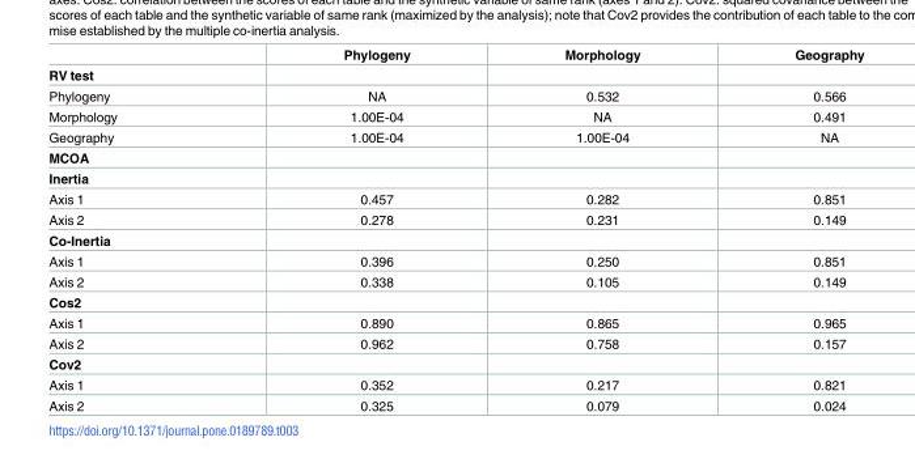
<table><thead><tr><td></td><td>Phylogeny</td><td>Morphology</td><td>Geography</td></tr></thead><tbody><tr><td colspan="4">RV test</td></tr><tr><td>Phylogeny</td><td>NA</td><td>0.532</td><td>0.566</td></tr><tr><td>Morphology</td><td>1.00E-04</td><td>NA</td><td>0.491</td></tr><tr><td>Geography</td><td>1.00E-04</td><td>1.00E-04</td><td>NA</td></tr><tr><td colspan="4">MCOA</td></tr><tr><td colspan="4">Inertia</td></tr><tr><td>Axis 1</td><td>0.457</td><td>0.282</td><td>0.851</td></tr><tr><td>Axis 2</td><td>0.278</td><td>0.231</td><td>0.149</td></tr><tr><td colspan="4">Co-Inertia</td></tr><tr><td>Axis 1</td><td>0.396</td><td>0.250</td><td>0.851</td></tr><tr><td>Axis 2</td><td>0.338</td><td>0.105</td><td>0.149</td></tr><tr><td colspan="4">Cos2</td></tr><tr><td>Axis 1</td><td>0.890</td><td>0.865</td><td>0.965</td></tr><tr><td>Axis 2</td><td>0.962</td><td>0.758</td><td>0.157</td></tr><tr><td colspan="4">Cov2</td></tr><tr><td>Axis 1</td><td>0.352</td><td>0.217</td><td>0.821</td></tr><tr><td>Axis 2</td><td>0.325</td><td>0.079</td><td>0.024</td></tr></tbody></table>